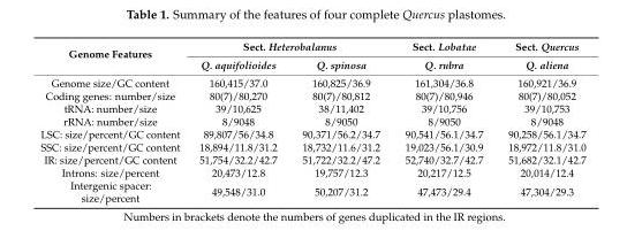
<table><thead><tr><td rowspan="2">Genome Features</td><td colspan="2">Sect. Heterobalanus</td><td rowspan="2">Sect. Lobatae Q. rubra</td><td rowspan="2">Sect. Quercus Q. aliena</td></tr><tr><td>Q. aquifolioides</td><td>Q. spinosa</td></tr></thead><tbody><tr><td>Genome size/GC content</td><td>160,415/37.0</td><td>160,825/36.9</td><td>161,304/36.8</td><td>160,921/36.9</td></tr><tr><td>Coding genes: number/size</td><td>80(7)/80,270</td><td>80(7)/80,812</td><td>80(7)/80,946</td><td>80(7)/80,052</td></tr><tr><td>tRNA: number/size</td><td>39/10,625</td><td>38/11,402</td><td>39/10,756</td><td>39/10,753</td></tr><tr><td>rRNA: number/size</td><td>8/9048</td><td>8/9050</td><td>8/9050</td><td>8/9048</td></tr><tr><td>LSC: size/percent/GC content</td><td>89,807/56/34.8</td><td>90,371/56.2/34.7</td><td>90,541/56.1/34.7</td><td>90,258/56.1/34.7</td></tr><tr><td>SSC: size/percent/GC content</td><td>18,894/11.8/31.2</td><td>18,732/11.6/31.2</td><td>19,023/56.1/30.9</td><td>18,972/11.8/31.0</td></tr><tr><td>IR: size/percent/GC content</td><td>51,754/32.2/42.7</td><td>51,722/32.2/47.2</td><td>52,740/32.7/42.7</td><td>51,682/32.1/42.7</td></tr><tr><td>Introns: size/percent</td><td>20,473/12.8</td><td>19,757/12.3</td><td>20,217/12.5</td><td>20,014/12.4</td></tr><tr><td>Intergenic spacer: size/percent</td><td>49,548/31.0</td><td>50,207/31.2</td><td>47,473/29.4</td><td>47,304/29.3</td></tr></tbody></table>